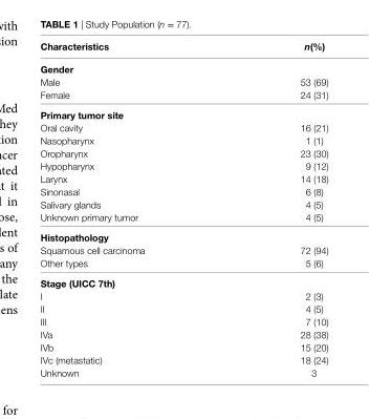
<table><thead><tr><td>characteristics</td><td>n(%)</td></tr></thead><tbody><tr><td colspan="2">gender</td></tr><tr><td>Male Female</td><td>53 (69) 24 (31)</td></tr><tr><td colspan="2">Primary tumor site</td></tr><tr><td>Oral cavity Nasopharynx Oropharynx Hypopharynx Larynx Sinonasal Salivary glands Unknown primary tumor</td><td>16 (21) 1 (1) 23 (30) 9 (12) 14 (18) 6 (8) 4 (5) 4 (5)</td></tr><tr><td colspan="2">histopathology</td></tr><tr><td>Squamous cell carcinoma Other types</td><td>72 (94) 5 (6)</td></tr><tr><td colspan="2">stage (Uicc 7th)</td></tr><tr><td>I II III IVa IVb IVc (metastatic) Unknown</td><td>2 (3) 4 (5) 7 (10) 28 (38) 15 (20) 18 (24) 3</td></tr></tbody></table>